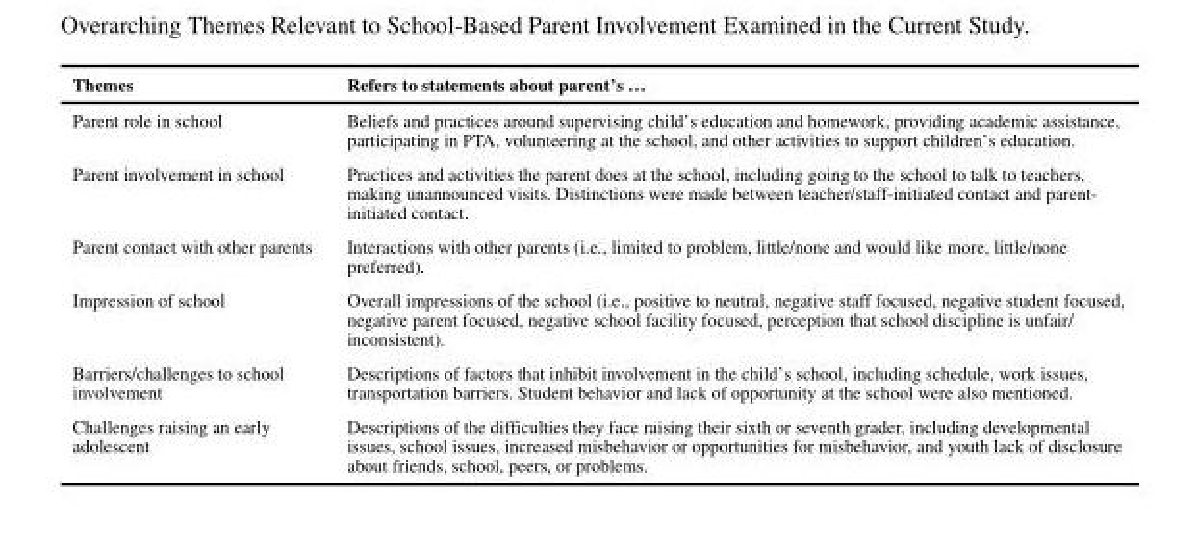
<table><thead><tr><td>Themes</td><td>Refers to statements about parent’s …</td></tr></thead><tbody><tr><td>Parent role in school</td><td>Beliefs and practices around supervising child’s education and homework, providing academic assistance, participating in PTA, volunteering at the school, and other activities to support children’s education.</td></tr><tr><td>Parent involvement in school</td><td>Practices and activities the parent does at the school, including going to the school to talk to teachers, making unannounced visits. Distinctions were made between teacher/staff-initiated contact and parent- initiated contact.</td></tr><tr><td>Parent contact with other parents</td><td>Interactions with other parents (i.e., limited to problem, little/none and would like more, little/none preferred).</td></tr><tr><td>Impression of school</td><td>Overall impressions of the school (i.e., positive to neutral, negative staff focused, negative student focused, negative parent focused, negative school facility focused, perception that school discipline is unfair/ inconsistent).</td></tr><tr><td>Barriers/challenges to school involvement</td><td>Descriptions of factors that inhibit involvement in the child’s school, including schedule, work issues, transportation barriers. Student behavior and lack of opportunity at the school were also mentioned.</td></tr><tr><td>Challenges raising an early adolescent</td><td>Descriptions of the difficulties they face raising their sixth or seventh grader, including developmental issues, school issues, increased misbehavior or opportunities for misbehavior, and youth lack of disclosure about friends, school, peers, or problems.</td></tr></tbody></table>